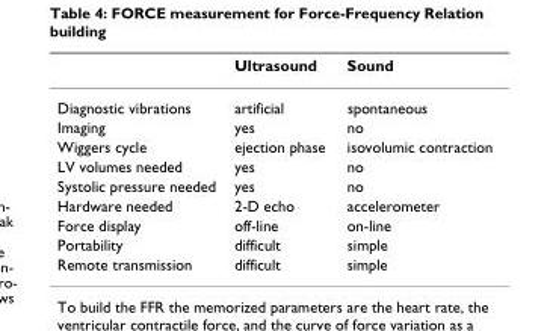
<table><thead><tr><td></td><td>Ultrasound</td><td>Sound</td></tr></thead><tbody><tr><td>Diagnostic vibrations</td><td>artificial</td><td>spontaneous</td></tr><tr><td>Imaging</td><td>yes</td><td>no</td></tr><tr><td>Wiggers cycle</td><td>ejection phase</td><td>isovolumic contraction</td></tr><tr><td>LV volumes needed</td><td>yes</td><td>no</td></tr><tr><td>Systolic pressure needed</td><td>yes</td><td>no</td></tr><tr><td>Hardware needed</td><td>2-D echo</td><td>accelerometer</td></tr><tr><td>Force display</td><td>off-line</td><td>on-line</td></tr><tr><td>Portability</td><td>difficult</td><td>simple</td></tr><tr><td>Remote transmission</td><td>difficult</td><td>simple</td></tr></tbody></table>